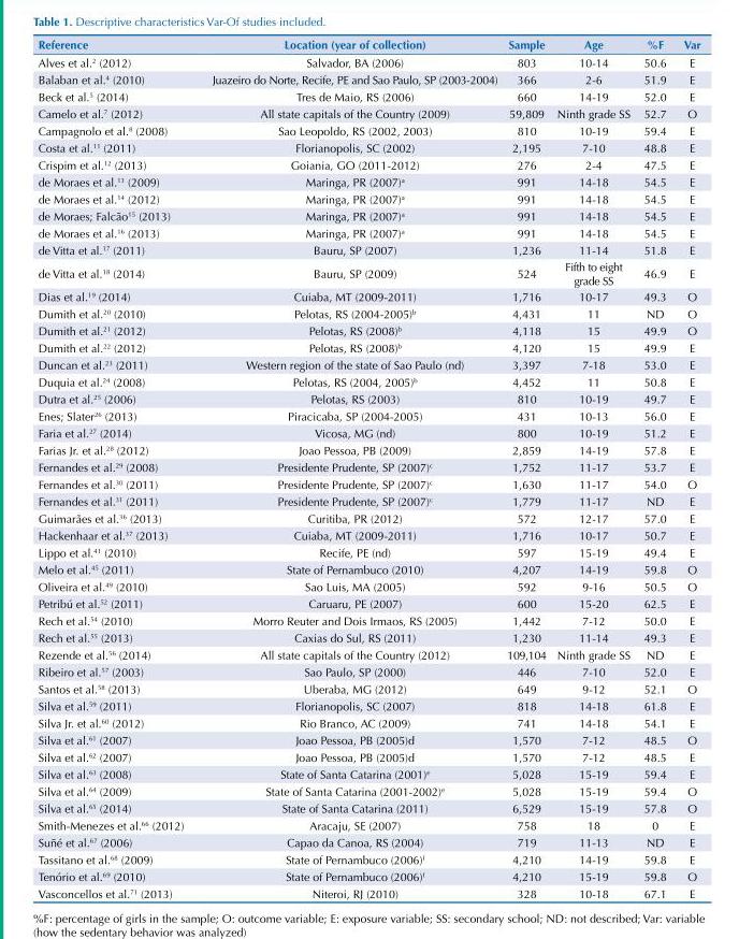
<table><thead><tr><td>Reference</td><td>Location (year of collection)</td><td>Sample</td><td>Age</td><td>%F</td><td>Var</td></tr></thead><tbody><tr><td>Alves et al.<sup>2</sup> (2012)</td><td>Salvador, BA (2006)</td><td>803</td><td>10-14</td><td>50.6</td><td>E</td></tr><tr><td>Balaban et al.<sup>4</sup> (2010)</td><td>Juazeiro do Norte, Recife, PE and Sao Paulo, SP (2003-2004)</td><td>366</td><td>2-6</td><td>51.9</td><td>E</td></tr><tr><td>Beck et al.<sup>5</sup> (2014)</td><td>Tres de Maio, RS (2006)</td><td>660</td><td>14-19</td><td>52.0</td><td>E</td></tr><tr><td>Camelo et al.<sup>7</sup> (2012)</td><td>All state capitals of the Country (2009)</td><td>59,809</td><td>Ninth grade SS</td><td>52.7</td><td>O</td></tr><tr><td>Campagnolo et al.<sup>8</sup> (2008)</td><td>Sao Leopoldo, RS (2002, 2003)</td><td>810</td><td>10-19</td><td>59.4</td><td>E</td></tr><tr><td>Costa et al.<sup>11</sup> (2011)</td><td>Florianopolis, SC (2002)</td><td>2,195</td><td>7-10</td><td>48.8</td><td>E</td></tr><tr><td>Crispim et al.<sup>12</sup> (2013)</td><td>Goiania, GO (2011-2012)</td><td>276</td><td>2-4</td><td>47.5</td><td>E</td></tr><tr><td>de Moraes et al.<sup>13</sup> (2009)</td><td>Maringa, PR (2007)<sup>a</sup></td><td>991</td><td>14-18</td><td>54.5</td><td>E</td></tr><tr><td>de Moraes et al.<sup>14</sup> (2012)</td><td>Maringa, PR (2007)<sup>a</sup></td><td>991</td><td>14-18</td><td>54.5</td><td>E</td></tr><tr><td>de Moraes; Falcão<sup>15</sup> (2013)</td><td>Maringa, PR (2007)<sup>a</sup></td><td>991</td><td>14-18</td><td>54.5</td><td>E</td></tr><tr><td>de Moraes et al.<sup>16</sup> (2013)</td><td>Maringa, PR (2007)<sup>a</sup></td><td>991</td><td>14-18</td><td>54.5</td><td>E</td></tr><tr><td>de Vitta et al.<sup>17</sup> (2011)</td><td>Bauru, SP (2007)</td><td>1,236</td><td>11-14</td><td>51.8</td><td>E</td></tr><tr><td>de Vitta et al.<sup>18</sup> (2014)</td><td>Bauru, SP (2009)</td><td>524</td><td>Fifth to eight grade SS</td><td>46.9</td><td>E</td></tr><tr><td>Dias et al.<sup>19</sup> (2014)</td><td>Cuiaba, MT (2009-2011)</td><td>1,716</td><td>10-17</td><td>49.3</td><td>O</td></tr><tr><td>Dumith et al.<sup>20</sup> (2010)</td><td>Pelotas, RS (2004-2005)<sup>b</sup></td><td>4,431</td><td>11</td><td>ND</td><td>O</td></tr><tr><td>Dumith et al.<sup>21</sup> (2012)</td><td>Pelotas, RS (2008)<sup>b</sup></td><td>4,118</td><td>15</td><td>49.9</td><td>O</td></tr><tr><td>Dumith et al.<sup>22</sup> (2012)</td><td>Pelotas, RS (2008)<sup>b</sup></td><td>4,120</td><td>15</td><td>49.9</td><td>E</td></tr><tr><td>Duncan et al.<sup>23</sup> (2011)</td><td>Western region of the state of Sao Paulo (nd)</td><td>3,397</td><td>7-18</td><td>53.0</td><td>E</td></tr><tr><td>Duquia et al.<sup>24</sup> (2008)</td><td>Pelotas, RS (2004, 2005)<sup>b</sup></td><td>4,452</td><td>11</td><td>50.8</td><td>E</td></tr><tr><td>Dutra et al.<sup>25</sup> (2006)</td><td>Pelotas, RS (2003)</td><td>810</td><td>10-19</td><td>49.7</td><td>E</td></tr><tr><td>Enes; Slater<sup>26</sup> (2013)</td><td>Piracicaba, SP (2004-2005)</td><td>431</td><td>10-13</td><td>56.0</td><td>E</td></tr><tr><td>Faria et al.<sup>27</sup> (2014)</td><td>Vicosa, MG (nd)</td><td>800</td><td>10-19</td><td>51.2</td><td>E</td></tr><tr><td>Farias Jr. et al.<sup>28</sup> (2012)</td><td>Joao Pessoa, PB (2009)</td><td>2,859</td><td>14-19</td><td>57.8</td><td>E</td></tr><tr><td>Fernandes et al.<sup>29</sup> (2008)</td><td>Presidente Prudente, SP (2007)<sup>c</sup></td><td>1,752</td><td>11-17</td><td>53.7</td><td>E</td></tr><tr><td>Fernandes et al.<sup>30</sup> (2011)</td><td>Presidente Prudente, SP (2007)<sup>c</sup></td><td>1,630</td><td>11-17</td><td>54.0</td><td>O</td></tr><tr><td>Fernandes et al.<sup>31</sup> (2011)</td><td>Presidente Prudente, SP (2007)<sup>c</sup></td><td>1,779</td><td>11-17</td><td>ND</td><td>E</td></tr><tr><td>Guimarães et al.<sup>36</sup> (2013)</td><td>Curitiba, PR (2012)</td><td>572</td><td>12-17</td><td>57.0</td><td>E</td></tr><tr><td>Hackenhaar et al.<sup>37</sup> (2013)</td><td>Cuiaba, MT (2009-2011)</td><td>1,716</td><td>10-17</td><td>50.7</td><td>E</td></tr><tr><td>Lippo et al.<sup>41</sup> (2010)</td><td>Recife, PE (nd)</td><td>597</td><td>15-19</td><td>49.4</td><td>E</td></tr><tr><td>Melo et al.<sup>45</sup> (2011)</td><td>State of Pernambuco (2010)</td><td>4,207</td><td>14-19</td><td>59.8</td><td>O</td></tr><tr><td>Oliveira et al.<sup>49</sup> (2010)</td><td>Sao Luis, MA (2005)</td><td>592</td><td>9-16</td><td>50.5</td><td>O</td></tr><tr><td>Petribú et al.<sup>52</sup> (2011)</td><td>Caruaru, PE (2007)</td><td>600</td><td>15-20</td><td>62.5</td><td>E</td></tr><tr><td>Rech et al.<sup>54</sup> (2010)</td><td>Morro Reuter and Dois Irmaos, RS (2005)</td><td>1,442</td><td>7-12</td><td>50.0</td><td>E</td></tr><tr><td>Rech et al.<sup>55</sup> (2013)</td><td>Caxias do Sul, RS (2011)</td><td>1,230</td><td>11-14</td><td>49.3</td><td>E</td></tr><tr><td>Rezende et al.<sup>56</sup> (2014)</td><td>All state capitals of the Country (2012)</td><td>109,104</td><td>Ninth grade SS</td><td>ND</td><td>E</td></tr><tr><td>Ribeiro et al.<sup>57</sup> (2003)</td><td>Sao Paulo, SP (2000)</td><td>446</td><td>7-10</td><td>52.0</td><td>E</td></tr><tr><td>Santos et al.<sup>58</sup> (2013)</td><td>Uberaba, MG (2012)</td><td>649</td><td>9-12</td><td>52.1</td><td>O</td></tr><tr><td>Silva et al.<sup>59</sup> (2011)</td><td>Florianopolis, SC (2007)</td><td>818</td><td>14-18</td><td>61.8</td><td>E</td></tr><tr><td>Silva Jr. et al.<sup>60</sup> (2012)</td><td>Rio Branco, AC (2009)</td><td>741</td><td>14-18</td><td>54.1</td><td>E</td></tr><tr><td>Silva et al.<sup>61</sup> (2007)</td><td>Joao Pessoa, PB (2005)d</td><td>1,570</td><td>7-12</td><td>48.5</td><td>O</td></tr><tr><td>Silva et al.<sup>62</sup> (2007)</td><td>Joao Pessoa, PB (2005)d</td><td>1,570</td><td>7-12</td><td>48.5</td><td>E</td></tr><tr><td>Silva et al.<sup>63</sup> (2008)</td><td>State of Santa Catarina (2001)<sup>e</sup></td><td>5,028</td><td>15-19</td><td>59.4</td><td>E</td></tr><tr><td>Silva et al.<sup>64</sup> (2009)</td><td>State of Santa Catarina (2001-2002)<sup>e</sup></td><td>5,028</td><td>15-19</td><td>59.4</td><td>O</td></tr><tr><td>Silva et al.<sup>65</sup> (2014)</td><td>State of Santa Catarina (2011)</td><td>6,529</td><td>15-19</td><td>57.8</td><td>O</td></tr><tr><td>Smith-Menezes et al.<sup>66</sup> (2012)</td><td>Aracaju, SE (2007)</td><td>758</td><td>18</td><td>0</td><td>E</td></tr><tr><td>Suñé et al.<sup>67</sup> (2006)</td><td>Capao da Canoa, RS (2004)</td><td>719</td><td>11-13</td><td>ND</td><td>E</td></tr><tr><td>Tassitano et al.<sup>68</sup> (2009)</td><td>State of Pernambuco (2006)<sup>f</sup></td><td>4,210</td><td>14-19</td><td>59.8</td><td>E</td></tr><tr><td>Tenório et al.<sup>69</sup> (2010)</td><td>State of Pernambuco (2006)<sup>f</sup></td><td>4,210</td><td>15-19</td><td>59.8</td><td>O</td></tr><tr><td>Vasconcellos et al.<sup>71</sup> (2013)</td><td>Niteroi, RJ (2010)</td><td>328</td><td>10-18</td><td>67.1</td><td>E</td></tr></tbody></table>